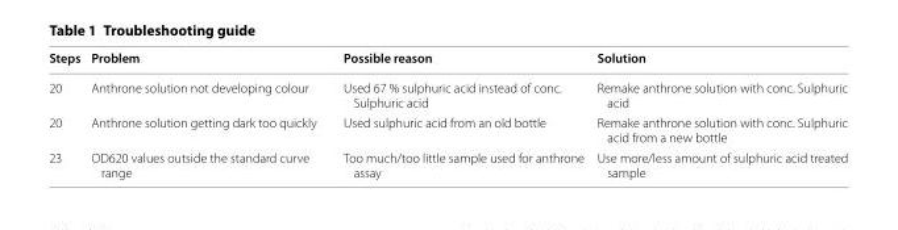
<table><thead><tr><td>Steps</td><td>Problem</td><td>Possible reason</td><td>Solution</td></tr></thead><tbody><tr><td>20</td><td>Anthrone solution not developing colour</td><td>Used 67 % sulphuric acid instead of conc. Sulphuric acid</td><td>Remake anthrone solution with conc. Sulphuric acid</td></tr><tr><td>20</td><td>Anthrone solution getting dark too quickly</td><td>Used sulphuric acid from an old bottle</td><td>Remake anthrone solution with conc. Sulphuric acid from a new bottle</td></tr><tr><td>23</td><td>OD620 values outside the standard curve range</td><td>Too much/too little sample used for anthrone assay</td><td>Use more/less amount of sulphuric acid treated sample</td></tr></tbody></table>